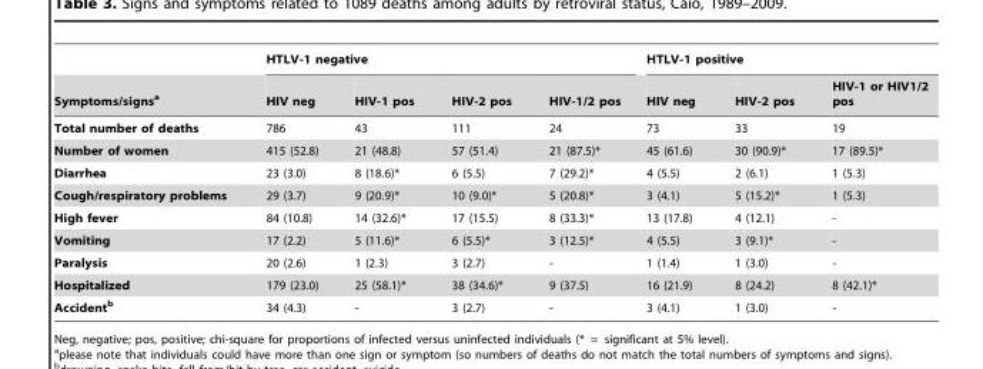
<table><thead><tr><td rowspan="2">Symptoms/signs<sup>a</sup></td><td colspan="4">HTLV-1 negative</td><td colspan="3">HTLV-1 positive</td></tr><tr><td>HIV neg</td><td>HIV-1 pos</td><td>HIV-2 pos</td><td>HIV-1/2 pos</td><td>HIV neg</td><td>HIV-2 pos</td><td>HIV-1 or HIV1/2 pos</td></tr></thead><tbody><tr><td>Total number of deaths</td><td>786</td><td>43</td><td>111</td><td>24</td><td>73</td><td>33</td><td>19</td></tr><tr><td>Number of women</td><td>415 (52.8)</td><td>21 (48.8)</td><td>57 (51.4)</td><td>21 (87.5)*</td><td>45 (61.6)</td><td>30 (90.9)*</td><td>17 (89.5)*</td></tr><tr><td>Diarrhea</td><td>23 (3.0)</td><td>8 (18.6)*</td><td>6 (5.5)</td><td>7 (29.2)*</td><td>4 (5.5)</td><td>2 (6.1)</td><td>1 (5.3)</td></tr><tr><td>Cough/respiratory problems</td><td>29 (3.7)</td><td>9 (20.9)*</td><td>10 (9.0)*</td><td>5 (20.8)*</td><td>3 (4.1)</td><td>5 (15.2)*</td><td>1 (5.3)</td></tr><tr><td>High fever</td><td>84 (10.8)</td><td>14 (32.6)*</td><td>17 (15.5)</td><td>8 (33.3)*</td><td>13 (17.8)</td><td>4 (12.1)</td><td>-</td></tr><tr><td>Vomiting</td><td>17 (2.2)</td><td>5 (11.6)*</td><td>6 (5.5)*</td><td>3 (12.5)*</td><td>4 (5.5)</td><td>3 (9.1)*</td><td>-</td></tr><tr><td>Paralysis</td><td>20 (2.6)</td><td>1 (2.3)</td><td>3 (2.7)</td><td>-</td><td>1 (1.4)</td><td>1 (3.0)</td><td>-</td></tr><tr><td>Hospitalized</td><td>179 (23.0)</td><td>25 (58.1)*</td><td>38 (34.6)*</td><td>9 (37.5)</td><td>16 (21.9)</td><td>8 (24.2)</td><td>8 (42.1)*</td></tr><tr><td>Accidentb</td><td>34 (4.3)</td><td>-</td><td>3 (2.7)</td><td>-</td><td>3 (4.1)</td><td>1 (3.0)</td><td>-</td></tr></tbody></table>